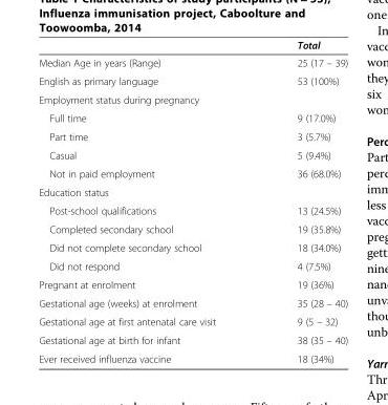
<table><thead><tr><td></td><td>Total</td></tr></thead><tbody><tr><td>Median Age in years (Range)</td><td>25 (17 – 39)</td></tr><tr><td>English as primary language</td><td>53 (100%)</td></tr><tr><td colspan="2">Employment status during pregnancy</td></tr><tr><td>Full time</td><td>9 (17.0%)</td></tr><tr><td>Part time</td><td>3 (5.7%)</td></tr><tr><td>Casual</td><td>5 (9.4%)</td></tr><tr><td>Not in paid employment</td><td>36 (68.0%)</td></tr><tr><td colspan="2">Education status</td></tr><tr><td>Post-school qualifications</td><td>13 (24.5%)</td></tr><tr><td>Completed secondary school</td><td>19 (35.8%)</td></tr><tr><td>Did not complete secondary school</td><td>18 (34.0%)</td></tr><tr><td>Did not respond</td><td>4 (7.5%)</td></tr><tr><td>Pregnant at enrolment</td><td>19 (36%)</td></tr><tr><td>Gestational age (weeks) at enrolment</td><td>35 (28 – 40)</td></tr><tr><td>Gestational age at first antenatal care visit</td><td>9 (5 – 32)</td></tr><tr><td>Gestational age at birth for infant</td><td>38 (35 – 40)</td></tr><tr><td>Ever received influenza vaccine</td><td>18 (34%)</td></tr></tbody></table>